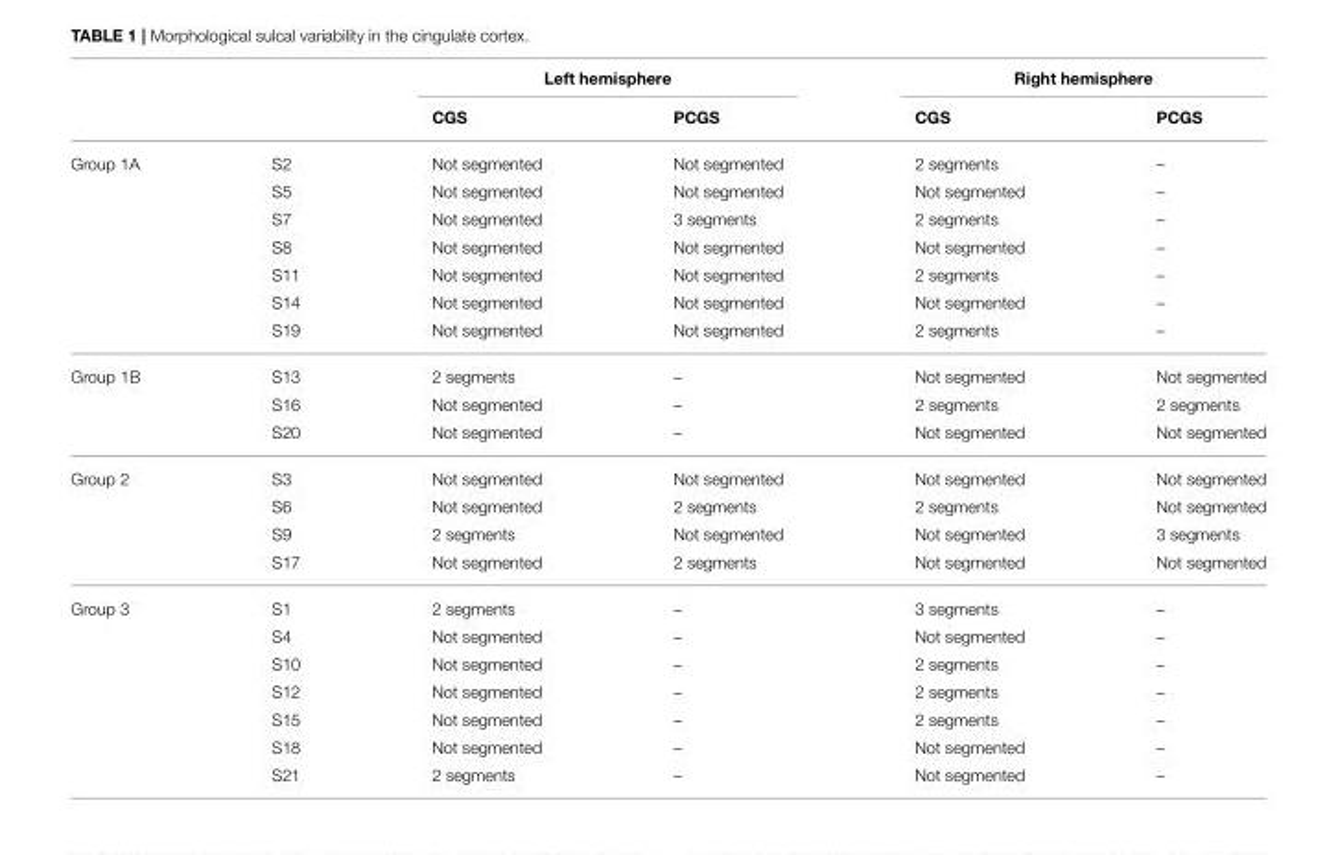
<table><thead><tr><td rowspan="2"></td><td rowspan="2"></td><td colspan="2">Left hemisphere</td><td colspan="2">Right hemisphere</td></tr><tr><td>CGS</td><td>PCGS</td><td>CGS</td><td>PCGS</td></tr></thead><tbody><tr><td rowspan="7">Group 1A</td><td>S2</td><td>Not segmented</td><td>Not segmented</td><td>2 segments</td><td>–</td></tr><tr><td>S5</td><td>Not segmented</td><td>Not segmented</td><td>Not segmented</td><td>–</td></tr><tr><td>S7</td><td>Not segmented</td><td>3 segments</td><td>2 segments</td><td>–</td></tr><tr><td>S8</td><td>Not segmented</td><td>Not segmented</td><td>Not segmented</td><td>–</td></tr><tr><td>S11</td><td>Not segmented</td><td>Not segmented</td><td>2 segments</td><td>–</td></tr><tr><td>S14</td><td>Not segmented</td><td>Not segmented</td><td>Not segmented</td><td>–</td></tr><tr><td>S19</td><td>Not segmented</td><td>Not segmented</td><td>2 segments</td><td>–</td></tr><tr><td rowspan="3">Group 1B</td><td>S13</td><td>2 segments</td><td>–</td><td>Not segmented</td><td>Not segmented</td></tr><tr><td>S16</td><td>Not segmented</td><td>–</td><td>2 segments</td><td>2 segments</td></tr><tr><td>S20</td><td>Not segmented</td><td>–</td><td>Not segmented</td><td>Not segmented</td></tr><tr><td rowspan="4">Group 2</td><td>S3</td><td>Not segmented</td><td>Not segmented</td><td>Not segmented</td><td>Not segmented</td></tr><tr><td>S6</td><td>Not segmented</td><td>2 segments</td><td>2 segments</td><td>Not segmented</td></tr><tr><td>S9</td><td>2 segments</td><td>Not segmented</td><td>Not segmented</td><td>3 segments</td></tr><tr><td>S17</td><td>Not segmented</td><td>2 segments</td><td>Not segmented</td><td>Not segmented</td></tr><tr><td rowspan="7">Group 3</td><td>S1</td><td>2 segments</td><td>–</td><td>3 segments</td><td>–</td></tr><tr><td>S4</td><td>Not segmented</td><td>–</td><td>Not segmented</td><td>–</td></tr><tr><td>S10</td><td>Not segmented</td><td>–</td><td>2 segments</td><td>–</td></tr><tr><td>S12</td><td>Not segmented</td><td>–</td><td>2 segments</td><td>–</td></tr><tr><td>S15</td><td>Not segmented</td><td>–</td><td>2 segments</td><td>–</td></tr><tr><td>S18</td><td>Not segmented</td><td>–</td><td>Not segmented</td><td>–</td></tr><tr><td>S21</td><td>2 segments</td><td>–</td><td>Not segmented</td><td>–</td></tr></tbody></table>